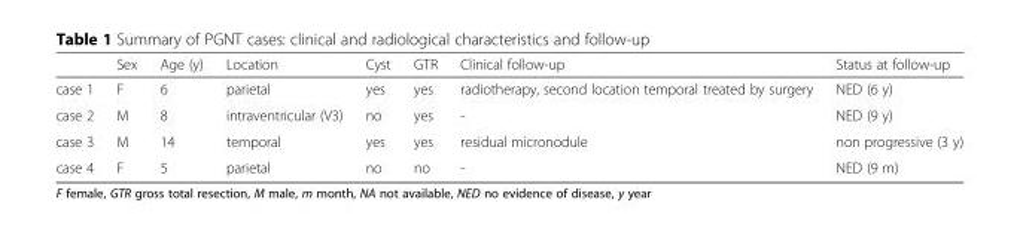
<table><thead><tr><td></td><td>Sex</td><td>Age (y)</td><td>Location</td><td>Cyst</td><td>GTR</td><td>Clinical follow-up</td><td>Status at follow-up</td></tr></thead><tbody><tr><td>case 1</td><td>F</td><td>6</td><td>parietal</td><td>yes</td><td>yes</td><td>radiotherapy, second location temporal treated by surgery</td><td>NED (6 y)</td></tr><tr><td>case 2</td><td>M</td><td>8</td><td>intraventricular (V3)</td><td>no</td><td>yes</td><td>-</td><td>NED (9 y)</td></tr><tr><td>case 3</td><td>M</td><td>14</td><td>temporal</td><td>yes</td><td>yes</td><td>residual micronodule</td><td>non progressive (3 y)</td></tr><tr><td>case 4</td><td>F</td><td>5</td><td>parietal</td><td>no</td><td>no</td><td>-</td><td>NED (9 m)</td></tr></tbody></table>